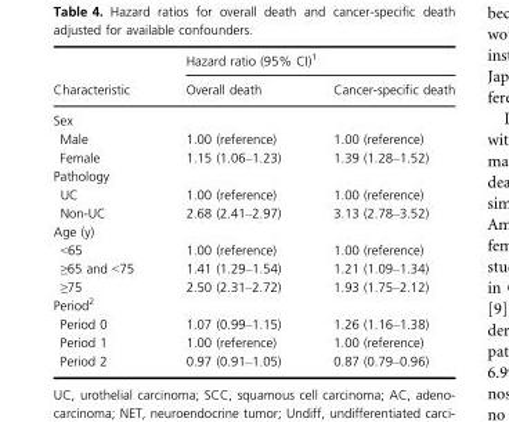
<table><thead><tr><td rowspan="2">Characteristic</td><td colspan="2">Hazard ratio (95% CI)<sup>1</sup></td></tr><tr><td>Overall death</td><td>Cancer-specific death</td></tr></thead><tbody><tr><td colspan="3">Sex</td></tr><tr><td>Male</td><td>1.00 (reference)</td><td>1.00 (reference)</td></tr><tr><td>Female</td><td>1.15 (1.06–1.23)</td><td>1.39 (1.28–1.52)</td></tr><tr><td colspan="3">Pathology</td></tr><tr><td>UC</td><td>1.00 (reference)</td><td>1.00 (reference)</td></tr><tr><td>Non-UC</td><td>2.68 (2.41–2.97)</td><td>3.13 (2.78–3.52)</td></tr><tr><td colspan="3">Age (y)</td></tr><tr><td>&lt;65</td><td>1.00 (reference)</td><td>1.00 (reference)</td></tr><tr><td>≥65 and &lt;75</td><td>1.41 (1.29–1.54)</td><td>1.21 (1.09–1.34)</td></tr><tr><td>≥75</td><td>2.50 (2.31–2.72)</td><td>1.93 (1.75–2.12)</td></tr><tr><td colspan="3">Period<sup>2</sup></td></tr><tr><td>Period 0</td><td>1.07 (0.99–1.15)</td><td>1.26 (1.16–1.38)</td></tr><tr><td>Period 1</td><td>1.00 (reference)</td><td>1.00 (reference)</td></tr><tr><td>Period 2</td><td>0.97 (0.91–1.05)</td><td>0.87 (0.79–0.96)</td></tr></tbody></table>